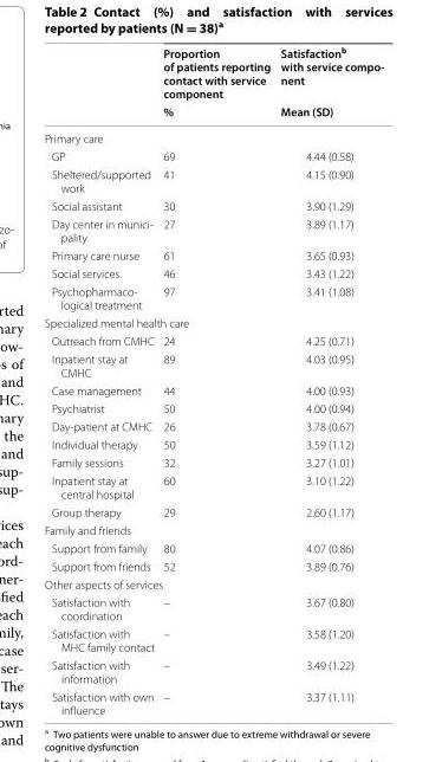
<table><thead><tr><td rowspan="2"></td><td rowspan="2">Proportion of patients reporting contact with service component %</td><td rowspan="2">Satisfactionb with service compo- nent Mean (SD)</td></tr><tr></tr></thead><tbody><tr><td colspan="3">Primary care</td></tr><tr><td>GP</td><td>69</td><td>4.44 (0.58)</td></tr><tr><td>Sheltered/supported work</td><td>41</td><td>4.15 (0.90)</td></tr><tr><td>Social assistant</td><td>30</td><td>3.90 (1.29)</td></tr><tr><td>Day center in munici- pality</td><td>27</td><td>3.89 (1.17)</td></tr><tr><td>Primary care nurse</td><td>61</td><td>3.65 (0.93)</td></tr><tr><td>Social services</td><td>46</td><td>3.43 (1.22)</td></tr><tr><td>Psychopharmaco- logical treatment</td><td>97</td><td>3.41 (1.08)</td></tr><tr><td colspan="3">Specialized mental health care</td></tr><tr><td>Outreach from CMHC</td><td>24</td><td>4.25 (0.71)</td></tr><tr><td>Inpatient stay at CMHC</td><td>89</td><td>4.03 (0.95)</td></tr><tr><td>Case management</td><td>44</td><td>4.00 (0.93)</td></tr><tr><td>Psychiatrist</td><td>50</td><td>4.00 (0.94)</td></tr><tr><td>Day-patient at CMHC</td><td>26</td><td>3.78 (0.67)</td></tr><tr><td>Individual therapy</td><td>50</td><td>3.59 (1.12)</td></tr><tr><td>Family sessions</td><td>32</td><td>3.27 (1.01)</td></tr><tr><td>Inpatient stay at central hospital</td><td>60</td><td>3.10 (1.22)</td></tr><tr><td>Group therapy</td><td>29</td><td>2.60 (1.17)</td></tr><tr><td colspan="3">Family and friends</td></tr><tr><td>Support from family</td><td>80</td><td>4.07 (0.86)</td></tr><tr><td>Support from friends</td><td>52</td><td>3.89 (0.76)</td></tr><tr><td colspan="3">Other aspects of services</td></tr><tr><td>Satisfaction with coordination</td><td>–</td><td>3.67 (0.80)</td></tr><tr><td>Satisfaction with MHC family contact</td><td>–</td><td>3.58 (1.20)</td></tr><tr><td>Satisfaction with information</td><td>–</td><td>3.49 (1.22)</td></tr><tr><td>Satisfaction with own influence</td><td>–</td><td>3.37 (1.11)</td></tr></tbody></table>